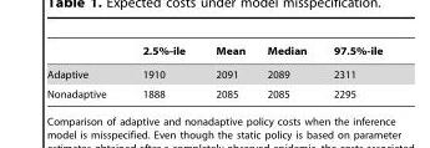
<table><thead><tr><td></td><td>2.5%-ile</td><td>Mean</td><td>Median</td><td>97.5%-ile</td></tr></thead><tbody><tr><td>Adaptive</td><td>1910</td><td>2091</td><td>2089</td><td>2311</td></tr><tr><td>Nonadaptive</td><td>1888</td><td>2085</td><td>2085</td><td>2295</td></tr></tbody></table>